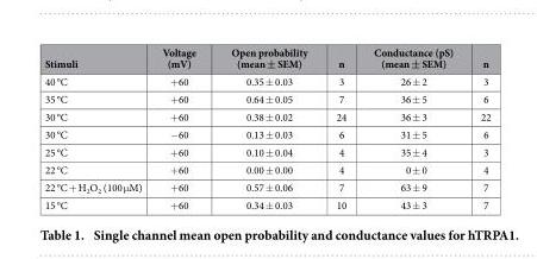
<table><thead><tr><td>Stimuli</td><td>Voltage (mV)</td><td>Open probability (mean ± SEM)</td><td>n</td><td>Conductance (pS) (mean ± SEM)</td><td>n</td></tr></thead><tbody><tr><td>40 °C</td><td>+ 60</td><td>0.35 ± 0.03</td><td>3</td><td>26 ± 2</td><td>3</td></tr><tr><td>35 °C</td><td>+ 60</td><td>0.64 ± 0.05</td><td>7</td><td>36 ± 5</td><td>6</td></tr><tr><td>30 °C</td><td>+ 60</td><td>0.38 ± 0.02</td><td>24</td><td>36 ± 3</td><td>22</td></tr><tr><td>30 °C</td><td>− 60</td><td>0.13 ± 0.03</td><td>6</td><td>31 ± 5</td><td>6</td></tr><tr><td>25 °C</td><td>+ 60</td><td>0.10 ± 0.04</td><td>4</td><td>35 ± 4</td><td>3</td></tr><tr><td>22 °C</td><td>+ 60</td><td>0.00 ± 0.00</td><td>4</td><td>0 ± 0</td><td>4</td></tr><tr><td>22 °C + H<sub>2</sub>O<sub>2</sub> (100 μ M)</td><td>+ 60</td><td>0.57 ± 0.06</td><td>7</td><td>63 ± 9</td><td>7</td></tr><tr><td>15 °C</td><td>+ 60</td><td>0.34 ± 0.03</td><td>10</td><td>43 ± 3</td><td>7</td></tr></tbody></table>